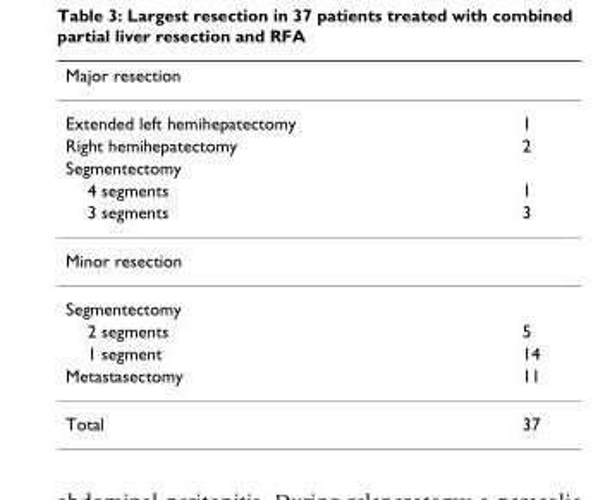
<table><thead><tr><td>Major resection</td><td></td></tr></thead><tbody><tr><td>Extended left hemihepatectomy</td><td>1</td></tr><tr><td>Right hemihepatectomy</td><td>2</td></tr><tr><td colspan="2">Segmentectomy</td></tr><tr><td>4 segments</td><td>1</td></tr><tr><td>3 segments</td><td>3</td></tr><tr><td colspan="2">Minor resection</td></tr><tr><td colspan="2">Segmentectomy</td></tr><tr><td>2 segments</td><td>5</td></tr><tr><td>1 segment</td><td>14</td></tr><tr><td>Metastasectomy</td><td>11</td></tr><tr><td>Total</td><td>37</td></tr></tbody></table>